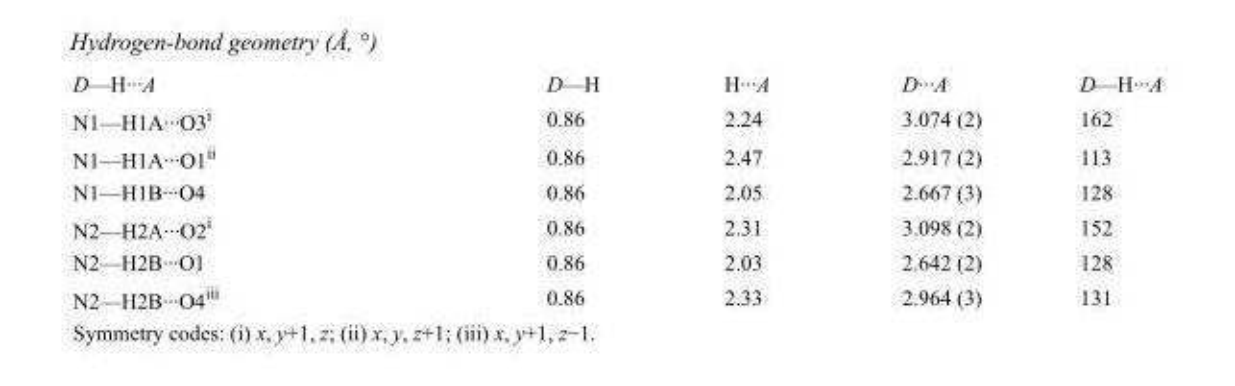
<table><tbody><tr><td>D—H···A</td><td>D—H</td><td>H···A</td><td>D···A</td><td>D—H···A</td></tr><tr><td>N1—H1A···O3<sup>i</sup></td><td>0.86</td><td>2.24</td><td>3.074 (2)</td><td>162</td></tr><tr><td>N1—H1A···O1<sup>ii</sup></td><td>0.86</td><td>2.47</td><td>2.917 (2)</td><td>113</td></tr><tr><td>N1—H1B···O4</td><td>0.86</td><td>2.05</td><td>2.667 (3)</td><td>128</td></tr><tr><td>N2—H2A···O2<sup>i</sup></td><td>0.86</td><td>2.31</td><td>3.098 (2)</td><td>152</td></tr><tr><td>N2—H2B···O1</td><td>0.86</td><td>2.03</td><td>2.642 (2)</td><td>128</td></tr><tr><td>N2—H2B···O4<sup>iii</sup></td><td>0.86</td><td>2.33</td><td>2.964 (3)</td><td>131</td></tr></tbody></table>